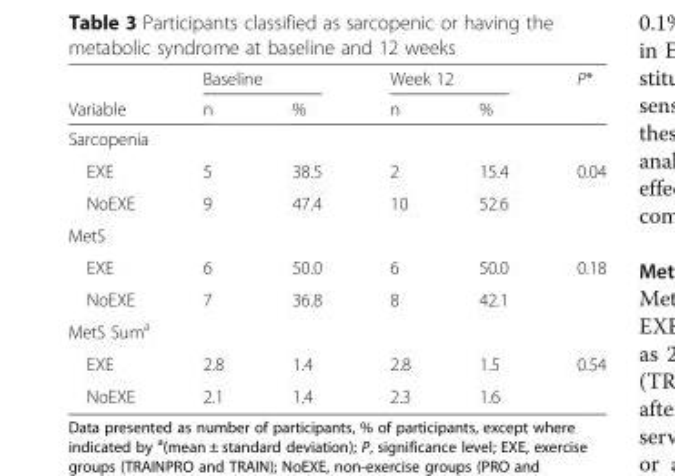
<table><thead><tr><td rowspan="2">Variable</td><td colspan="2">Baseline</td><td colspan="2">Week 12</td><td rowspan="2">P*</td></tr><tr><td>n</td><td>%</td><td>n</td><td>%</td></tr></thead><tbody><tr><td colspan="6">Sarcopenia</td></tr><tr><td>EXE</td><td>5</td><td>38.5</td><td>2</td><td>15.4</td><td>0.04</td></tr><tr><td>NoEXE</td><td>9</td><td>47.4</td><td>10</td><td>52.6</td><td></td></tr><tr><td colspan="6">MetS</td></tr><tr><td>EXE</td><td>6</td><td>50.0</td><td>6</td><td>50.0</td><td>0.18</td></tr><tr><td>NoEXE</td><td>7</td><td>36.8</td><td>8</td><td>42.1</td><td></td></tr><tr><td colspan="6">MetS Sum<sup>a</sup></td></tr><tr><td>EXE</td><td>2.8</td><td>1.4</td><td>2.8</td><td>1.5</td><td>0.54</td></tr><tr><td>NoEXE</td><td>2.1</td><td>1.4</td><td>2.3</td><td>1.6</td><td></td></tr></tbody></table>